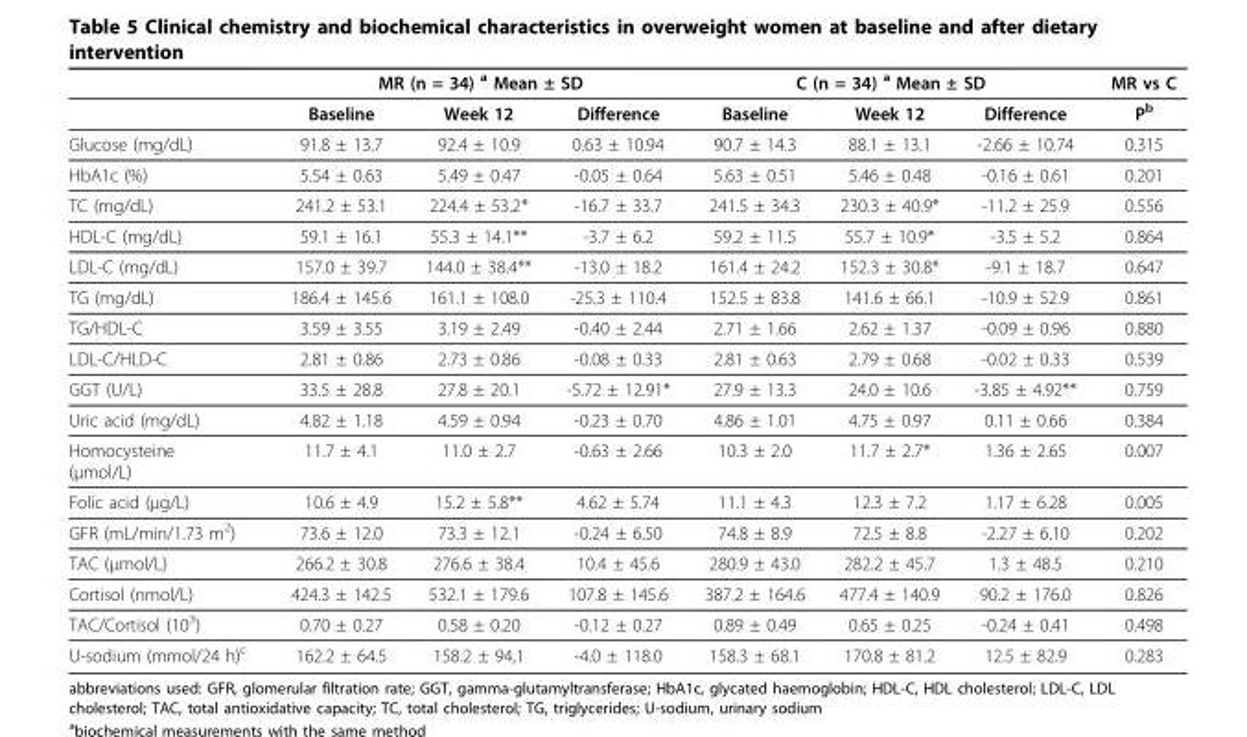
<table><thead><tr><td rowspan="2"></td><td colspan="3">MR (n = 34) <sup>a</sup> Mean ± SD</td><td colspan="3">C (n = 34) <sup>a</sup> Mean ± SD</td><td rowspan="2">MR vs C P<sup>b</sup></td></tr><tr><td>Baseline</td><td>Week 12</td><td>Difference</td><td>Baseline</td><td>Week 12</td><td>Difference</td></tr></thead><tbody><tr><td>Glucose (mg/dL)</td><td>91.8 ± 13.7</td><td>92.4 ± 10.9</td><td>0.63 ± 10.94</td><td>90.7 ± 14.3</td><td>88.1 ± 13.1</td><td>-2.66 ± 10.74</td><td>0.315</td></tr><tr><td>HbA1c (%)</td><td>5.54 ± 0.63</td><td>5.49 ± 0.47</td><td>-0.05 ± 0.64</td><td>5.63 ± 0.51</td><td>5.46 ± 0.48</td><td>-0.16 ± 0.61</td><td>0.201</td></tr><tr><td>TC (mg/dL)</td><td>241.2 ± 53.1</td><td>224.4 ± 53.2*</td><td>-16.7 ± 33.7</td><td>241.5 ± 34.3</td><td>230.3 ± 40.9*</td><td>-11.2 ± 25.9</td><td>0.556</td></tr><tr><td>HDL-C (mg/dL)</td><td>59.1 ± 16.1</td><td>55.3 ± 14.1**</td><td>-3.7 ± 6.2</td><td>59.2 ± 11.5</td><td>55.7 ± 10.9*</td><td>-3.5 ± 5.2</td><td>0.864</td></tr><tr><td>LDL-C (mg/dL)</td><td>157.0 ± 39.7</td><td>144.0 ± 38.4**</td><td>-13.0 ± 18.2</td><td>161.4 ± 24.2</td><td>152.3 ± 30.8*</td><td>-9.1 ± 18.7</td><td>0.647</td></tr><tr><td>TG (mg/dL)</td><td>186.4 ± 145.6</td><td>161.1 ± 108.0</td><td>-25.3 ± 110.4</td><td>152.5 ± 83.8</td><td>141.6 ± 66.1</td><td>-10.9 ± 52.9</td><td>0.861</td></tr><tr><td>TG/HDL-C</td><td>3.59 ± 3.55</td><td>3.19 ± 2.49</td><td>-0.40 ± 2.44</td><td>2.71 ± 1.66</td><td>2.62 ± 1.37</td><td>-0.09 ± 0.96</td><td>0.880</td></tr><tr><td>LDL-C/HLD-C</td><td>2.81 ± 0.86</td><td>2.73 ± 0.86</td><td>-0.08 ± 0.33</td><td>2.81 ± 0.63</td><td>2.79 ± 0.68</td><td>-0.02 ± 0.33</td><td>0.539</td></tr><tr><td>GGT (U/L)</td><td>33.5 ± 28.8</td><td>27.8 ± 20.1</td><td>-5.72 ± 12.91*</td><td>27.9 ± 13.3</td><td>24.0 ± 10.6</td><td>-3.85 ± 4.92**</td><td>0.759</td></tr><tr><td>Uric acid (mg/dL)</td><td>4.82 ± 1.18</td><td>4.59 ± 0.94</td><td>-0.23 ± 0.70</td><td>4.86 ± 1.01</td><td>4.75 ± 0.97</td><td>0.11 ± 0.66</td><td>0.384</td></tr><tr><td>Homocysteine (μmol/L)</td><td>11.7 ± 4.1</td><td>11.0 ± 2.7</td><td>-0.63 ± 2.66</td><td>10.3 ± 2.0</td><td>11.7 ± 2.7*</td><td>1.36 ± 2.65</td><td>0.007</td></tr><tr><td>Folic acid (μg/L)</td><td>10.6 ± 4.9</td><td>15.2 ± 5.8**</td><td>4.62 ± 5.74</td><td>11.1 ± 4.3</td><td>12.3 ± 7.2</td><td>1.17 ± 6.28</td><td>0.005</td></tr><tr><td>GFR (mL/min/1.73 m<sup>2</sup>)</td><td>73.6 ± 12.0</td><td>73.3 ± 12.1</td><td>-0.24 ± 6.50</td><td>74.8 ± 8.9</td><td>72.5 ± 8.8</td><td>-2.27 ± 6.10</td><td>0.202</td></tr><tr><td>TAC (μmol/L)</td><td>266.2 ± 30.8</td><td>276.6 ± 38.4</td><td>10.4 ± 45.6</td><td>280.9 ± 43.0</td><td>282.2 ± 45.7</td><td>1.3 ± 48.5</td><td>0.210</td></tr><tr><td>Cortisol (nmol/L)</td><td>424.3 ± 142.5</td><td>532.1 ± 179.6</td><td>107.8 ± 145.6</td><td>387.2 ± 164.6</td><td>477.4 ± 140.9</td><td>90.2 ± 176.0</td><td>0.826</td></tr><tr><td>TAC/Cortisol (10<sup>3</sup>)</td><td>0.70 ± 0.27</td><td>0.58 ± 0.20</td><td>-0.12 ± 0.27</td><td>0.89 ± 0.49</td><td>0.65 ± 0.25</td><td>-0.24 ± 0.41</td><td>0.498</td></tr><tr><td>U-sodium (mmol/24 h)<sup>c</sup></td><td>162.2 ± 64.5</td><td>158.2 ± 94,1</td><td>-4.0 ± 118.0</td><td>158.3 ± 68.1</td><td>170.8 ± 81.2</td><td>12.5 ± 82.9</td><td>0.283</td></tr></tbody></table>